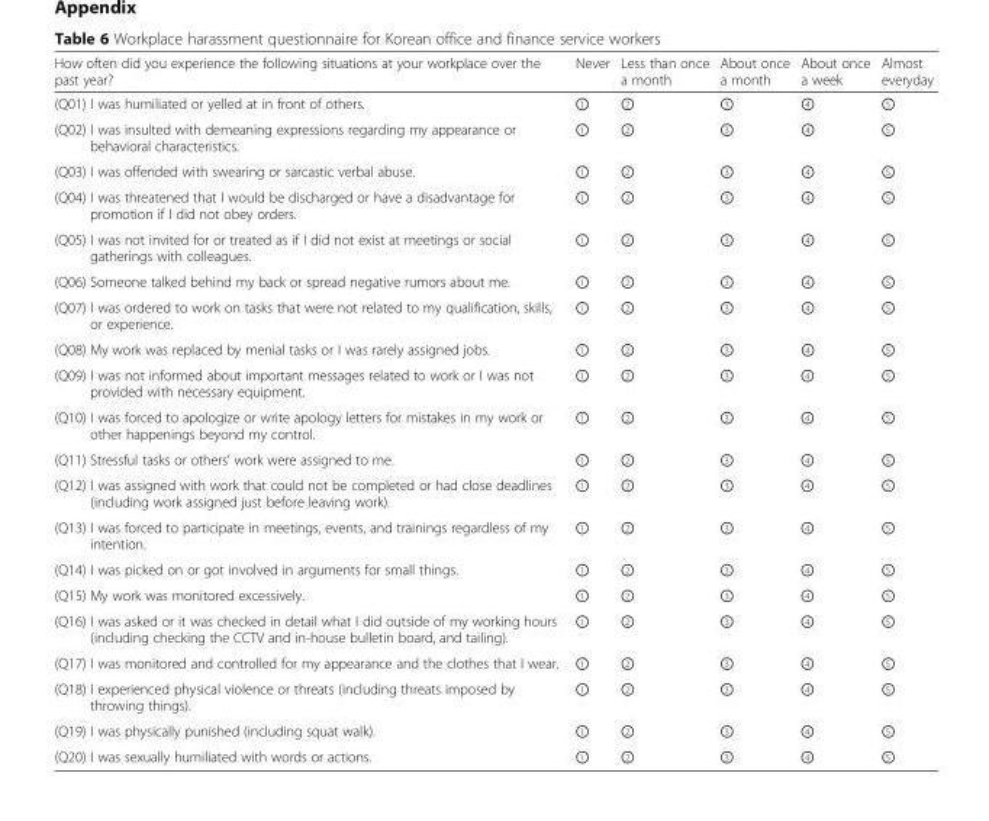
<table><thead><tr><td>How often did you experience the following situations at your workplace over the past year?</td><td>Never</td><td>Less than once a month</td><td>About once a month</td><td>About once a week</td><td>Almost everyday</td></tr></thead><tbody><tr><td>(Q01) I was humiliated or yelled at in front of others.</td><td>①</td><td>②</td><td>③</td><td>④</td><td>⑤</td></tr><tr><td>(Q02) I was insulted with demeaning expressions regarding my appearance or behavioral characteristics.</td><td>①</td><td>②</td><td>③</td><td>④</td><td>⑤</td></tr><tr><td>(Q03) I was offended with swearing or sarcastic verbal abuse.</td><td>①</td><td>②</td><td>③</td><td>④</td><td>⑤</td></tr><tr><td>(Q04) I was threatened that I would be discharged or have a disadvantage for promotion if I did not obey orders.</td><td>①</td><td>②</td><td>③</td><td>④</td><td>⑤</td></tr><tr><td>(Q05) I was not invited for or treated as if I did not exist at meetings or social gatherings with colleagues.</td><td>①</td><td>②</td><td>③</td><td>④</td><td>⑤</td></tr><tr><td>(Q06) Someone talked behind my back or spread negative rumors about me.</td><td>①</td><td>②</td><td>③</td><td>④</td><td>⑤</td></tr><tr><td>(Q07) I was ordered to work on tasks that were not related to my qualification, skills, or experience.</td><td>①</td><td>②</td><td>③</td><td>④</td><td>⑤</td></tr><tr><td>(Q08) My work was replaced by menial tasks or I was rarely assigned jobs.</td><td>①</td><td>②</td><td>③</td><td>④</td><td>⑤</td></tr><tr><td>(Q09) I was not informed about important messages related to work or I was not provided with necessary equipment.</td><td>①</td><td>②</td><td>③</td><td>④</td><td>⑤</td></tr><tr><td>(Q10) I was forced to apologize or write apology letters for mistakes in my work or other happenings beyond my control.</td><td>①</td><td>②</td><td>③</td><td>④</td><td>⑤</td></tr><tr><td>(Q11) Stressful tasks or others’ work were assigned to me.</td><td>①</td><td>②</td><td>③</td><td>④</td><td>⑤</td></tr><tr><td>(Q12) I was assigned with work that could not be completed or had close deadlines (including work assigned just before leaving work).</td><td>①</td><td>②</td><td>③</td><td>④</td><td>⑤</td></tr><tr><td>(Q13) I was forced to participate in meetings, events, and trainings regardless of my intention.</td><td>①</td><td>②</td><td>③</td><td>④</td><td>⑤</td></tr><tr><td>(Q14) I was picked on or got involved in arguments for small things.</td><td>①</td><td>②</td><td>③</td><td>④</td><td>⑤</td></tr><tr><td>(Q15) My work was monitored excessively.</td><td>①</td><td>②</td><td>③</td><td>④</td><td>⑤</td></tr><tr><td>(Q16) I was asked or it was checked in detail what I did outside of my working hours (including checking the CCTV and in-house bulletin board, and tailing).</td><td>①</td><td>②</td><td>③</td><td>④</td><td>⑤</td></tr><tr><td>(Q17) I was monitored and controlled for my appearance and the clothes that I wear.</td><td>①</td><td>②</td><td>③</td><td>④</td><td>⑤</td></tr><tr><td>(Q18) I experienced physical violence or threats (including threats imposed by throwing things).</td><td>①</td><td>②</td><td>③</td><td>④</td><td>⑤</td></tr><tr><td>(Q19) I was physically punished (including squat walk).</td><td>①</td><td>②</td><td>③</td><td>④</td><td>⑤</td></tr><tr><td>(Q20) I was sexually humiliated with words or actions.</td><td>①</td><td>②</td><td>③</td><td>④</td><td>⑤</td></tr></tbody></table>